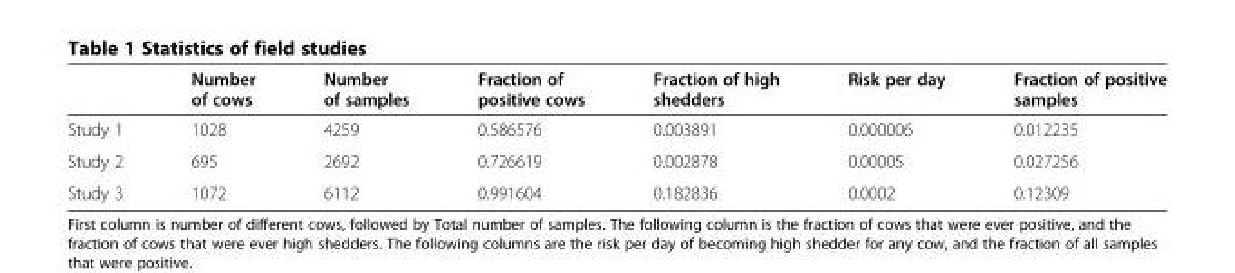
<table><thead><tr><td></td><td>Number of cows</td><td>Number of samples</td><td>Fraction of positive cows</td><td>Fraction of high shedders</td><td>Risk per day</td><td>Fraction of positive samples</td></tr></thead><tbody><tr><td>Study 1</td><td>1028</td><td>4259</td><td>0.586576</td><td>0.003891</td><td>0.000006</td><td>0.012235</td></tr><tr><td>Study 2</td><td>695</td><td>2692</td><td>0.726619</td><td>0.002878</td><td>0.00005</td><td>0.027256</td></tr><tr><td>Study 3</td><td>1072</td><td>6112</td><td>0.991604</td><td>0.182836</td><td>0.0002</td><td>0.12309</td></tr></tbody></table>